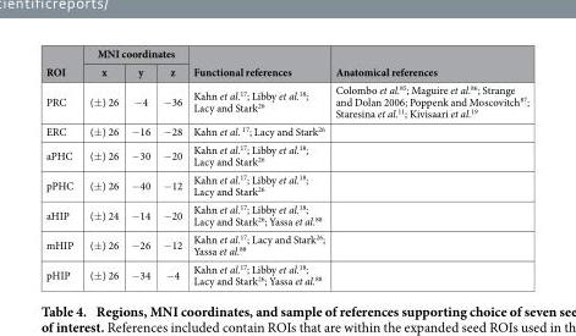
<table><thead><tr><td rowspan="2">ROI</td><td colspan="3">MNI coordinates</td><td rowspan="2">Functional references</td><td rowspan="2">Anatomical references</td></tr><tr><td>x</td><td>y</td><td>z</td></tr></thead><tbody><tr><td>PRC</td><td>(± ) 26</td><td>− 4</td><td>− 36</td><td>Kahn et al.<sup>17</sup>; Libby et al.<sup>18</sup>; Lacy and Stark<sup>26</sup></td><td>Colombo et al.<sup>85</sup>; Maguire et al.<sup>86</sup>; Strange and Dolan 2006; Poppenk and Moscovitch<sup>87</sup>; Staresina et al.<sup>11</sup>; Kivisaari et al.<sup>19</sup></td></tr><tr><td>ERC</td><td>(± ) 26</td><td>− 16</td><td>− 28</td><td>Kahn et al. 17; Lacy and Stark<sup>26</sup></td><td></td></tr><tr><td>aPHC</td><td>(± ) 26</td><td>− 30</td><td>− 20</td><td>Kahn et al.<sup>17</sup>; Libby et al.<sup>18</sup>; Lacy and Stark<sup>26</sup></td><td></td></tr><tr><td>pPHC</td><td>(± ) 26</td><td>− 40</td><td>− 12</td><td>Kahn et al.<sup>17</sup>; Libby et al.<sup>18</sup>; Lacy and Stark<sup>26</sup></td><td></td></tr><tr><td>aHIP</td><td>(± ) 24</td><td>− 14</td><td>− 20</td><td>Kahn et al.<sup>17</sup>; Libby et al.<sup>18</sup>; Lacy and Stark<sup>26</sup>; Yassa et al.<sup>88</sup></td><td></td></tr><tr><td>mHIP</td><td>(± ) 26</td><td>− 26</td><td>− 12</td><td>Kahn et al.<sup>17</sup>; Lacy and Stark<sup>26</sup>; Yassa et al.<sup>88</sup></td><td></td></tr><tr><td>pHIP</td><td>(± ) 26</td><td>− 34</td><td>− 4</td><td>Kahn et al.<sup>17</sup>; Libby et al.<sup>18</sup>; Lacy and Stark<sup>26</sup>; Yassa et al.<sup>88</sup></td><td></td></tr></tbody></table>